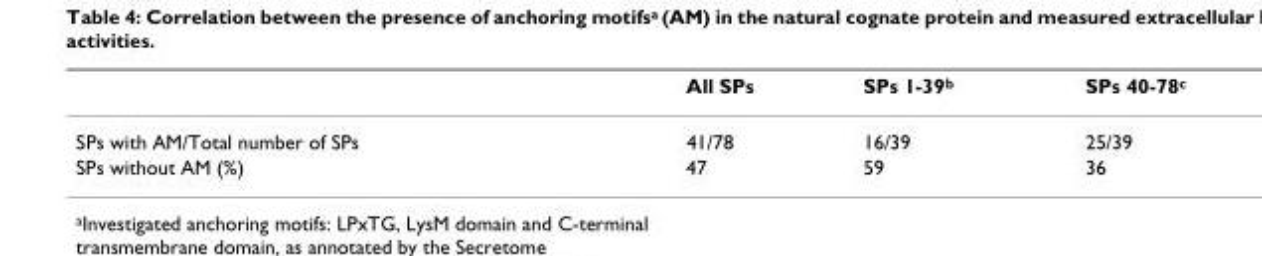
<table><thead><tr><td></td><td>All SPs</td><td>SPs 1-39<sup>b</sup></td><td>SPs 40-78<sup>c</sup></td></tr></thead><tbody><tr><td>SPs with AM/Total number of SPs</td><td>41/78</td><td>16/39</td><td>25/39</td></tr><tr><td>SPs without AM (%)</td><td>47</td><td>59</td><td>36</td></tr></tbody></table>